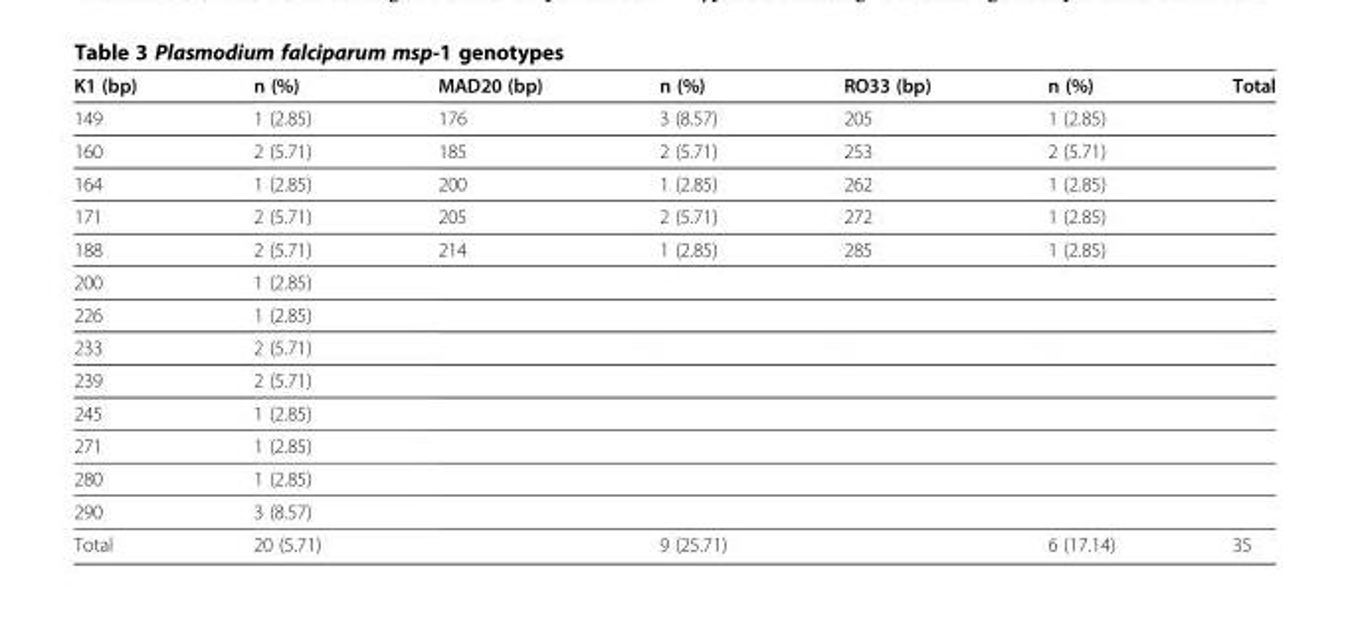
<table><thead><tr><td>K1 (bp)</td><td>n (%)</td><td>MAD20 (bp)</td><td>n (%)</td><td>RO33 (bp)</td><td>n (%)</td><td>Total</td></tr></thead><tbody><tr><td>149</td><td>1 (2.85)</td><td>176</td><td>3 (8.57)</td><td>205</td><td>1 (2.85)</td><td></td></tr><tr><td>160</td><td>2 (5.71)</td><td>185</td><td>2 (5.71)</td><td>253</td><td>2 (5.71)</td><td></td></tr><tr><td>164</td><td>1 (2.85)</td><td>200</td><td>1 (2.85)</td><td>262</td><td>1 (2.85)</td><td></td></tr><tr><td>171</td><td>2 (5.71)</td><td>205</td><td>2 (5.71)</td><td>272</td><td>1 (2.85)</td><td></td></tr><tr><td>188</td><td>2 (5.71)</td><td>214</td><td>1 (2.85)</td><td>285</td><td>1 (2.85)</td><td></td></tr><tr><td>200</td><td>1 (2.85)</td><td></td><td></td><td></td><td></td><td></td></tr><tr><td>226</td><td>1 (2.85)</td><td></td><td></td><td></td><td></td><td></td></tr><tr><td>233</td><td>2 (5.71)</td><td></td><td></td><td></td><td></td><td></td></tr><tr><td>239</td><td>2 (5.71)</td><td></td><td></td><td></td><td></td><td></td></tr><tr><td>245</td><td>1 (2.85)</td><td></td><td></td><td></td><td></td><td></td></tr><tr><td>271</td><td>1 (2.85)</td><td></td><td></td><td></td><td></td><td></td></tr><tr><td>280</td><td>1 (2.85)</td><td></td><td></td><td></td><td></td><td></td></tr><tr><td>290</td><td>3 (8.57)</td><td></td><td></td><td></td><td></td><td></td></tr><tr><td>Total</td><td>20 (5.71)</td><td></td><td>9 (25.71)</td><td></td><td>6 (17.14)</td><td>35</td></tr></tbody></table>